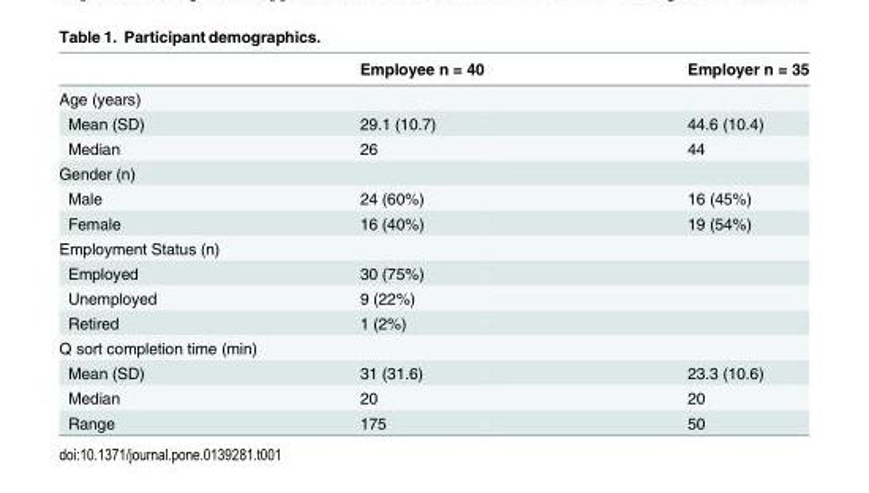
<table><thead><tr><td></td><td>Employee n = 40</td><td>Employer n = 35</td></tr></thead><tbody><tr><td colspan="3">Age (years)</td></tr><tr><td>Mean (SD)</td><td>29.1 (10.7)</td><td>44.6 (10.4)</td></tr><tr><td>Median</td><td>26</td><td>44</td></tr><tr><td colspan="3">Gender (n)</td></tr><tr><td>Male</td><td>24 (60%)</td><td>16 (45%)</td></tr><tr><td>Female</td><td>16 (40%)</td><td>19 (54%)</td></tr><tr><td colspan="3">Employment Status (n)</td></tr><tr><td>Employed</td><td>30 (75%)</td><td></td></tr><tr><td>Unemployed</td><td>9 (22%)</td><td></td></tr><tr><td>Retired</td><td>1 (2%)</td><td></td></tr><tr><td colspan="3">Q sort completion time (min)</td></tr><tr><td>Mean (SD)</td><td>31 (31.6)</td><td>23.3 (10.6)</td></tr><tr><td>Median</td><td>20</td><td>20</td></tr><tr><td>Range</td><td>175</td><td>50</td></tr></tbody></table>